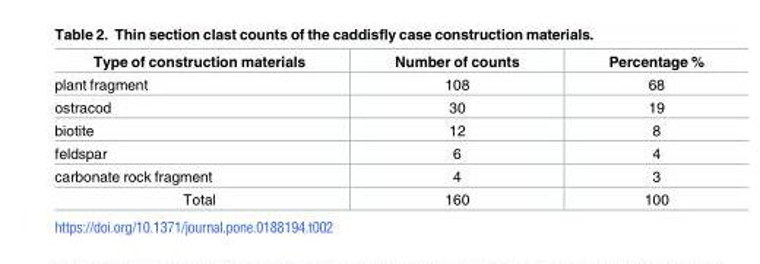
<table><thead><tr><td>Type of construction materials</td><td>Number of counts</td><td>Percentage %</td></tr></thead><tbody><tr><td>plant fragment</td><td>108</td><td>68</td></tr><tr><td>ostracod</td><td>30</td><td>19</td></tr><tr><td>biotite</td><td>12</td><td>8</td></tr><tr><td>feldspar</td><td>6</td><td>4</td></tr><tr><td>carbonate rock fragment</td><td>4</td><td>3</td></tr><tr><td>Total</td><td>160</td><td>100</td></tr></tbody></table>